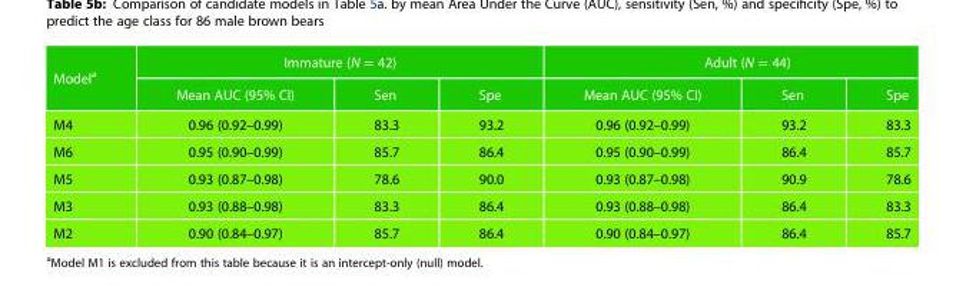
<table><thead><tr><td rowspan="2">Model<sup>a</sup></td><td colspan="3">Immature (N = 42)</td><td colspan="3">Adult (N = 44)</td></tr><tr><td>Mean AUC (95% CI)</td><td>Sen</td><td>Spe</td><td>Mean AUC (95% CI)</td><td>Sen</td><td>Spe</td></tr></thead><tbody><tr><td>M4</td><td>0.96 (0.92–0.99)</td><td>83.3</td><td>93.2</td><td>0.96 (0.92–0.99)</td><td>93.2</td><td>83.3</td></tr><tr><td>M6</td><td>0.95 (0.90–0.99)</td><td>85.7</td><td>86.4</td><td>0.95 (0.90–0.99)</td><td>86.4</td><td>85.7</td></tr><tr><td>M5</td><td>0.93 (0.87–0.98)</td><td>78.6</td><td>90.0</td><td>0.93 (0.87–0.98)</td><td>90.9</td><td>78.6</td></tr><tr><td>M3</td><td>0.93 (0.88–0.98)</td><td>83.3</td><td>86.4</td><td>0.93 (0.88–0.98)</td><td>86.4</td><td>83.3</td></tr><tr><td>M2</td><td>0.90 (0.84–0.97)</td><td>85.7</td><td>86.4</td><td>0.90 (0.84–0.97)</td><td>86.4</td><td>85.7</td></tr></tbody></table>